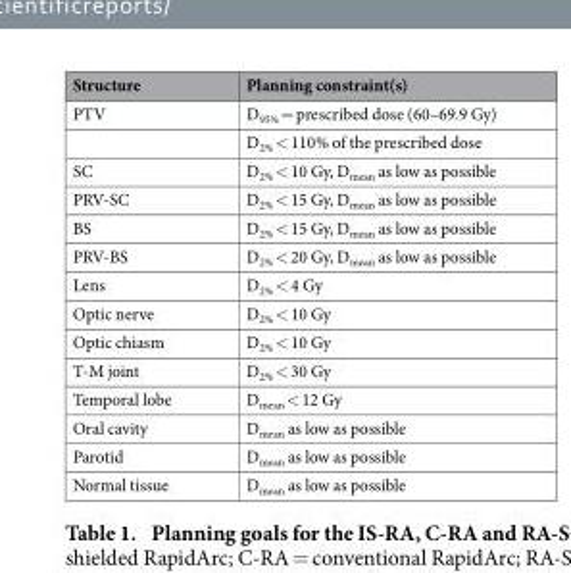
<table><thead><tr><td>Structure</td><td>Planning constraint(s)</td></tr></thead><tbody><tr><td rowspan="2">PTV</td><td>D<sub>95%</sub> = prescribed dose (60–69.9 Gy)</td></tr><tr><td>D<sub>2%</sub> &lt; 110% of the prescribed dose</td></tr><tr><td>SC</td><td>D<sub>2%</sub> &lt; 10 Gy, D<sub>mean</sub> as low as possible</td></tr><tr><td>PRV-SC</td><td>D<sub>2%</sub> &lt; 15 Gy, D<sub>mean</sub> as low as possible</td></tr><tr><td>BS</td><td>D<sub>2%</sub> &lt; 15 Gy, D<sub>mean</sub> as low as possible</td></tr><tr><td>PRV-BS</td><td>D<sub>2%</sub> &lt; 20 Gy, D<sub>mean</sub> as low as possible</td></tr><tr><td>Lens</td><td>D<sub>2%</sub> &lt; 4 Gy</td></tr><tr><td>Optic nerve</td><td>D<sub>2%</sub> &lt; 10 Gy</td></tr><tr><td>Optic chiasm</td><td>D<sub>2%</sub> &lt; 10 Gy</td></tr><tr><td>T-M joint</td><td>D<sub>2%</sub> &lt; 30 Gy</td></tr><tr><td>Temporal lobe</td><td>D<sub>mean</sub> &lt; 12 Gy</td></tr><tr><td>Oral cavity</td><td>D<sub>mean</sub> as low as possible</td></tr><tr><td>Parotid</td><td>D<sub>mean</sub> as low as possible</td></tr><tr><td>Normal tissue</td><td>D<sub>mean</sub> as low as possible</td></tr></tbody></table>